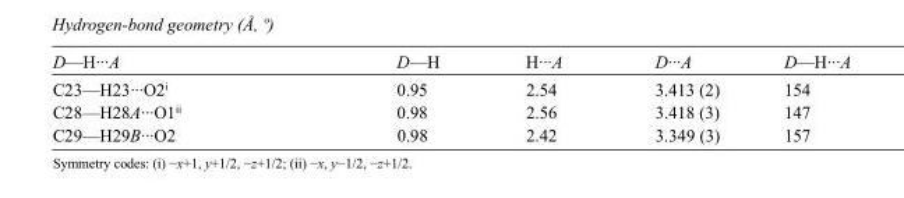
<table><tbody><tr><td>D—H···A</td><td>D—H</td><td>H···A</td><td>D···A</td><td>D—H···A</td></tr><tr><td>C23—H23···O2<sup>i</sup></td><td>0.95</td><td>2.54</td><td>3.413 (2)</td><td>154</td></tr><tr><td>C28—H28A···O1<sup>ii</sup></td><td>0.98</td><td>2.56</td><td>3.418 (3)</td><td>147</td></tr><tr><td>C29—H29B···O2</td><td>0.98</td><td>2.42</td><td>3.349 (3)</td><td>157</td></tr></tbody></table>